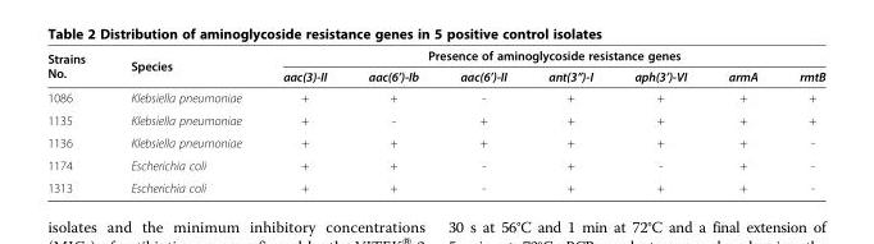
<table><thead><tr><td rowspan="2">Strains No.</td><td rowspan="2">Species</td><td colspan="7">Presence of aminoglycoside resistance genes</td></tr><tr><td>aac(3)-II</td><td>aac(6’)-Ib</td><td>aac(6’)-II</td><td>ant(3”)-I</td><td>aph(3’)-VI</td><td>armA</td><td>rmtB</td></tr></thead><tbody><tr><td>1086</td><td>Klebsiella pneumoniae</td><td>+</td><td>+</td><td>-</td><td>+</td><td>+</td><td>+</td><td>+</td></tr><tr><td>1135</td><td>Klebsiella pneumoniae</td><td>+</td><td>-</td><td>+</td><td>+</td><td>+</td><td>+</td><td>+</td></tr><tr><td>1136</td><td>Klebsiella pneumoniae</td><td>+</td><td>+</td><td>+</td><td>+</td><td>+</td><td>+</td><td>-</td></tr><tr><td>1174</td><td>Escherichia coli</td><td>+</td><td>+</td><td>-</td><td>+</td><td>-</td><td>+</td><td>-</td></tr><tr><td>1313</td><td>Escherichia coli</td><td>+</td><td>+</td><td>-</td><td>+</td><td>+</td><td>+</td><td>-</td></tr></tbody></table>